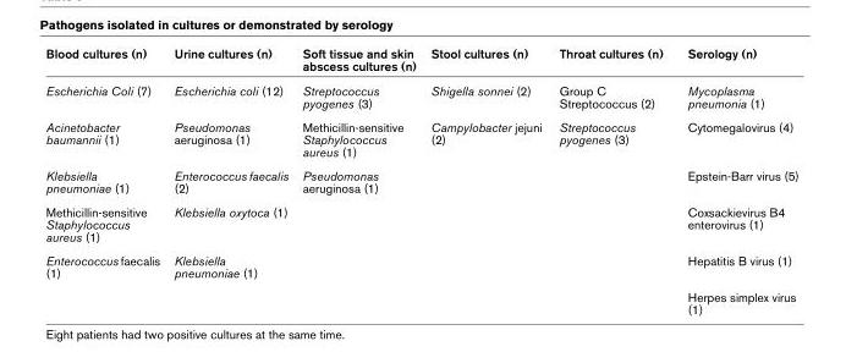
<table><thead><tr><td>Blood cultures (n)</td><td>Urine cultures (n)</td><td>Soft tissue and skin abscess cultures (n)</td><td>Stool cultures (n)</td><td>Throat cultures (n)</td><td>Serology (n)</td></tr></thead><tbody><tr><td>Escherichia Coli (7)</td><td>Escherichia coli (12)</td><td>Streptococcus pyogenes (3)</td><td>Shigella sonnei (2)</td><td>Group C Streptococcus (2)</td><td>Mycoplasma pneumonia (1)</td></tr><tr><td>Acinetobacter baumannii (1)</td><td>Pseudomonas aeruginosa (1)</td><td>Methicillin-sensitive Staphylococcus aureus (1)</td><td>Campylobacter jejuni (2)</td><td>Streptococcus pyogenes (3)</td><td>Cytomegalovirus (4)</td></tr><tr><td>Klebsiella pneumoniae (1)</td><td>Enterococcus faecalis (2)</td><td>Pseudomonas aeruginosa (1)</td><td></td><td></td><td>Epstein-Barr virus (5)</td></tr><tr><td>Methicillin-sensitive Staphylococcus aureus (1)</td><td>Klebsiella oxytoca (1)</td><td></td><td></td><td></td><td>Coxsackievirus B4 enterovirus (1)</td></tr><tr><td rowspan="2">Enterococcus faecalis (1)</td><td>Klebsiella pneumoniae (1)</td><td></td><td></td><td></td><td>Hepatitis B virus (1)</td></tr><tr><td></td><td></td><td></td><td></td><td>Herpes simplex virus (1)</td></tr></tbody></table>